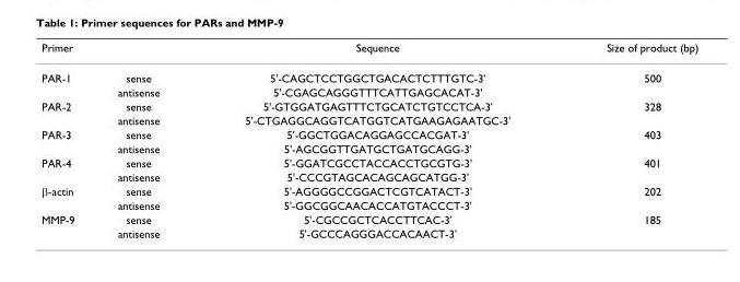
<table><thead><tr><td>Primer</td><td></td><td>Sequence</td><td>Size of product (bp)</td></tr></thead><tbody><tr><td rowspan="2">PAR-1</td><td>sense</td><td>5&#x27;-CAGCTCCTGGCTGACACTCTTTGTC-3&#x27;</td><td>500</td></tr><tr><td>antisense</td><td>5&#x27;-CGAGCAGGGTTTCATTGAGCACAT-3&#x27;</td><td></td></tr><tr><td rowspan="2">PAR-2</td><td>sense</td><td>5&#x27;-GTGGATGAGTTTCTGCATCTGTCCTCA-3&#x27;</td><td>328</td></tr><tr><td>antisense</td><td>5&#x27;-CTGAGGCAGGTCATGGTCATGAAGAGAATGC-3&#x27;</td><td></td></tr><tr><td rowspan="2">PAR-3</td><td>sense</td><td>5&#x27;-GGCTGGACAGGAGCCACGAT-3&#x27;</td><td>403</td></tr><tr><td>antisense</td><td>5&#x27;-AGCGGTTGATGCTGATGCAGG-3&#x27;</td><td></td></tr><tr><td rowspan="2">PAR-4</td><td>sense</td><td>5&#x27;-GGATCGCCTACCACCTGCGTG-3&#x27;</td><td>401</td></tr><tr><td>antisense</td><td>5&#x27;-CCCGTAGCACAGCAGCATGG-3&#x27;</td><td></td></tr><tr><td rowspan="2">β-actin</td><td>sense</td><td>5&#x27;-AGGGGCCGGACTCGTCATACT-3&#x27;</td><td>202</td></tr><tr><td>antisense</td><td>5&#x27;-GGCGGCAACACCATGTACCCT-3&#x27;</td><td></td></tr><tr><td rowspan="2">MMP-9</td><td>sense</td><td>5&#x27;-CGCCGCTCACCTTCAC-3&#x27;</td><td>185</td></tr><tr><td>antisense</td><td>5&#x27;-GCCCAGGGACCACAACT-3&#x27;</td><td></td></tr></tbody></table>